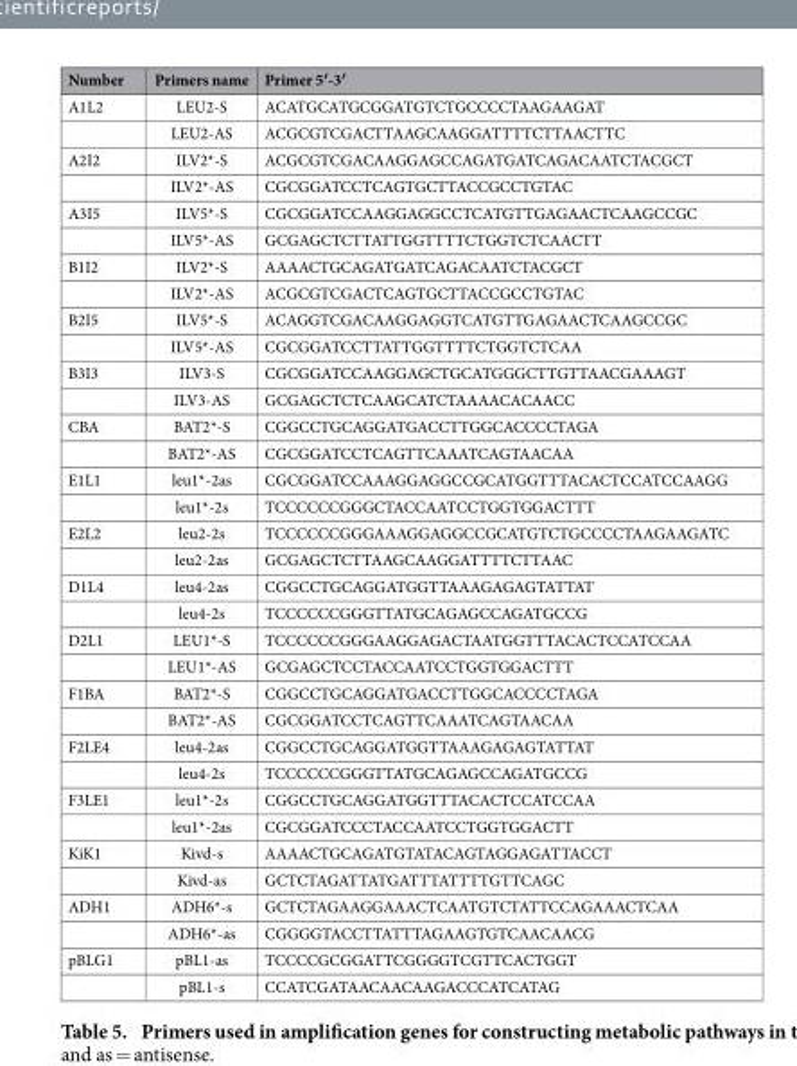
<table><thead><tr><td>Number</td><td>Primers name</td><td>Primer 5′-3′</td></tr></thead><tbody><tr><td rowspan="2">A1L2</td><td>LEU2-S</td><td>ACATGCATGCGGATGTCTGCCCCTAAGAAGAT</td></tr><tr><td>LEU2-AS</td><td>ACGCGTCGACTTAAGCAAGGATTTTCTTAACTTC</td></tr><tr><td rowspan="2">A2I2</td><td>ILV2*-S</td><td>ACGCGTCGACAAGGAGCCAGATGATCAGACAATCTACGCT</td></tr><tr><td>ILV2*-AS</td><td>CGCGGATCCTCAGTGCTTACCGCCTGTAC</td></tr><tr><td rowspan="2">A3I5</td><td>ILV5*-S</td><td>CGCGGATCCAAGGAGGCCTCATGTTGAGAACTCAAGCCGC</td></tr><tr><td>ILV5*-AS</td><td>GCGAGCTCTTATTGGTTTTCTGGTCTCAACTT</td></tr><tr><td rowspan="2">B1I2</td><td>ILV2*-S</td><td>AAAACTGCAGATGATCAGACAATCTACGCT</td></tr><tr><td>ILV2*-AS</td><td>ACGCGTCGACTCAGTGCTTACCGCCTGTAC</td></tr><tr><td rowspan="2">B2I5</td><td>ILV5*-S</td><td>ACAGGTCGACAAGGAGGTCATGTTGAGAACTCAAGCCGC</td></tr><tr><td>ILV5*-AS</td><td>CGCGGATCCTTATTGGTTTTCTGGTCTCAA</td></tr><tr><td rowspan="2">B3I3</td><td>ILV3-S</td><td>CGCGGATCCAAGGAGCTGCATGGGCTTGTTAACGAAAGT</td></tr><tr><td>ILV3-AS</td><td>GCGAGCTCTCAAGCATCTAAAACACAACC</td></tr><tr><td rowspan="2">CBA</td><td>BAT2*-S</td><td>CGGCCTGCAGGATGACCTTGGCACCCCTAGA</td></tr><tr><td>BAT2*-AS</td><td>CGCGGATCCTCAGTTCAAATCAGTAACAA</td></tr><tr><td rowspan="2">E1L1</td><td>leu1*-2as</td><td>CGCGGATCCAAAGGAGGCCGCATGGTTTACACTCCATCCAAGG</td></tr><tr><td>leu1*-2s</td><td>TCCCCCCGGGCTACCAATCCTGGTGGACTTT</td></tr><tr><td rowspan="2">E2L2</td><td>leu2-2s</td><td>TCCCCCCGGGAAAGGAGGCCGCATGTCTGCCCCTAAGAAGATC</td></tr><tr><td>leu2-2as</td><td>GCGAGCTCTTAAGCAAGGATTTTCTTAAC</td></tr><tr><td rowspan="2">D1L4</td><td>leu4-2as</td><td>CGGCCTGCAGGATGGTTAAAGAGAGTATTAT</td></tr><tr><td>leu4-2s</td><td>TCCCCCCGGGTTATGCAGAGCCAGATGCCG</td></tr><tr><td rowspan="2">D2L1</td><td>LEU1*-S</td><td>TCCCCCCGGGAAGGAGACTAATGGTTTACACTCCATCCAA</td></tr><tr><td>LEU1*-AS</td><td>GCGAGCTCCTACCAATCCTGGTGGACTTT</td></tr><tr><td rowspan="2">F1BA</td><td>BAT2*-S</td><td>CGGCCTGCAGGATGACCTTGGCACCCCTAGA</td></tr><tr><td>BAT2*-AS</td><td>CGCGGATCCTCAGTTCAAATCAGTAACAA</td></tr><tr><td rowspan="2">F2LE4</td><td>leu4-2as</td><td>CGGCCTGCAGGATGGTTAAAGAGAGTATTAT</td></tr><tr><td>leu4-2s</td><td>TCCCCCCGGGTTATGCAGAGCCAGATGCCG</td></tr><tr><td rowspan="2">F3LE1</td><td>leu1*-2s</td><td>CGGCCTGCAGGATGGTTTACACTCCATCCAA</td></tr><tr><td>leu1*-2as</td><td>CGCGGATCCCTACCAATCCTGGTGGACTT</td></tr><tr><td rowspan="2">KiK1</td><td>Kivd-s</td><td>AAAACTGCAGATGTATACAGTAGGAGATTACCT</td></tr><tr><td>Kivd-as</td><td>GCTCTAGATTATGATTTATTTTGTTCAGC</td></tr><tr><td rowspan="2">ADH1</td><td>ADH6*-s</td><td>GCTCTAGAAGGAAACTCAATGTCTATTCCAGAAACTCAA</td></tr><tr><td>ADH6*-as</td><td>CGGGGTACCTTATTTAGAAGTGTCAACAACG</td></tr><tr><td rowspan="2">pBLG1</td><td>pBL1-as</td><td>TCCCCGCGGATTCGGGGTCGTTCACTGGT</td></tr><tr><td>pBL1-s</td><td>CCATCGATAACAACAAGACCCATCATAG</td></tr></tbody></table>